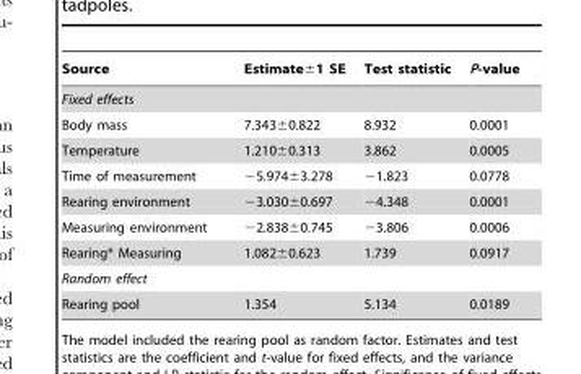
<table><thead><tr><td>Source</td><td>Estimate±1 SE</td><td>Test statistic</td><td>P-value</td></tr></thead><tbody><tr><td colspan="4">Fixed effects</td></tr><tr><td>Body mass</td><td>7.343±0.822</td><td>8.932</td><td>0.0001</td></tr><tr><td>Temperature</td><td>1.210±0.313</td><td>3.862</td><td>0.0005</td></tr><tr><td>Time of measurement</td><td>−5.974±3.278</td><td>−1.823</td><td>0.0778</td></tr><tr><td>Rearing environment</td><td>−3.030±0.697</td><td>−4.348</td><td>0.0001</td></tr><tr><td>Measuring environment</td><td>−2.838±0.745</td><td>−3.806</td><td>0.0006</td></tr><tr><td>Rearing* Measuring</td><td>1.082±0.623</td><td>1.739</td><td>0.0917</td></tr><tr><td colspan="4">Random effect</td></tr><tr><td>Rearing pool</td><td>1.354</td><td>5.134</td><td>0.0189</td></tr></tbody></table>